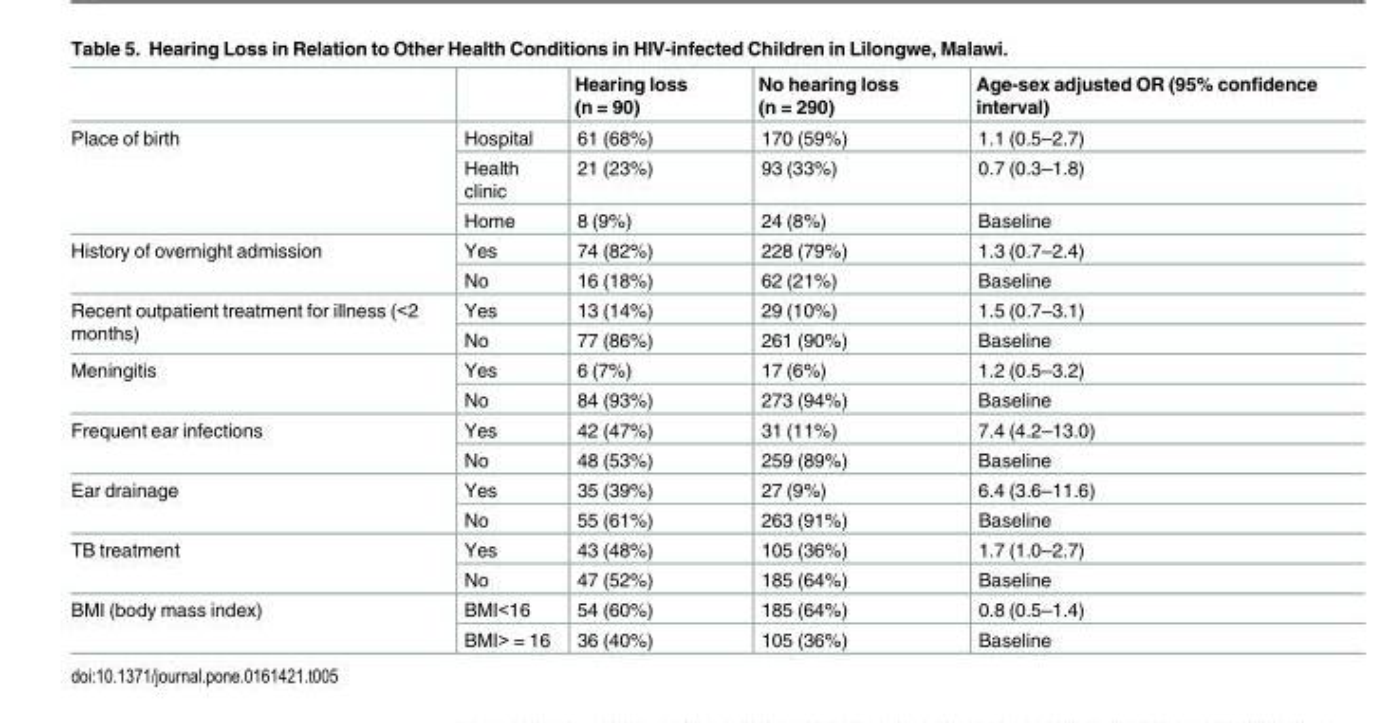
<table><thead><tr><td></td><td></td><td>Hearing loss (n = 90)</td><td>No hearing loss (n = 290)</td><td>Age-sex adjusted OR (95% confidence interval)</td></tr></thead><tbody><tr><td rowspan="3">Place of birth</td><td>Hospital</td><td>61 (68%)</td><td>170 (59%)</td><td>1.1 (0.5–2.7)</td></tr><tr><td>Health clinic</td><td>21 (23%)</td><td>93 (33%)</td><td>0.7 (0.3–1.8)</td></tr><tr><td>Home</td><td>8 (9%)</td><td>24 (8%)</td><td>Baseline</td></tr><tr><td rowspan="2">History of overnight admission</td><td>Yes</td><td>74 (82%)</td><td>228 (79%)</td><td>1.3 (0.7–2.4)</td></tr><tr><td>No</td><td>16 (18%)</td><td>62 (21%)</td><td>Baseline</td></tr><tr><td rowspan="2">Recent outpatient treatment for illness (&lt;2 months)</td><td>Yes</td><td>13 (14%)</td><td>29 (10%)</td><td>1.5 (0.7–3.1)</td></tr><tr><td>No</td><td>77 (86%)</td><td>261 (90%)</td><td>Baseline</td></tr><tr><td rowspan="2">Meningitis</td><td>Yes</td><td>6 (7%)</td><td>17 (6%)</td><td>1.2 (0.5–3.2)</td></tr><tr><td>No</td><td>84 (93%)</td><td>273 (94%)</td><td>Baseline</td></tr><tr><td rowspan="2">Frequent ear infections</td><td>Yes</td><td>42 (47%)</td><td>31 (11%)</td><td>7.4 (4.2–13.0)</td></tr><tr><td>No</td><td>48 (53%)</td><td>259 (89%)</td><td>Baseline</td></tr><tr><td rowspan="2">Ear drainage</td><td>Yes</td><td>35 (39%)</td><td>27 (9%)</td><td>6.4 (3.6–11.6)</td></tr><tr><td>No</td><td>55 (61%)</td><td>263 (91%)</td><td>Baseline</td></tr><tr><td rowspan="2">TB treatment</td><td>Yes</td><td>43 (48%)</td><td>105 (36%)</td><td>1.7 (1.0–2.7)</td></tr><tr><td>No</td><td>47 (52%)</td><td>185 (64%)</td><td>Baseline</td></tr><tr><td rowspan="2">BMI (body mass index)</td><td>BMI&lt;16</td><td>54 (60%)</td><td>185 (64%)</td><td>0.8 (0.5–1.4)</td></tr><tr><td>BMI&gt; = 16</td><td>36 (40%)</td><td>105 (36%)</td><td>Baseline</td></tr></tbody></table>